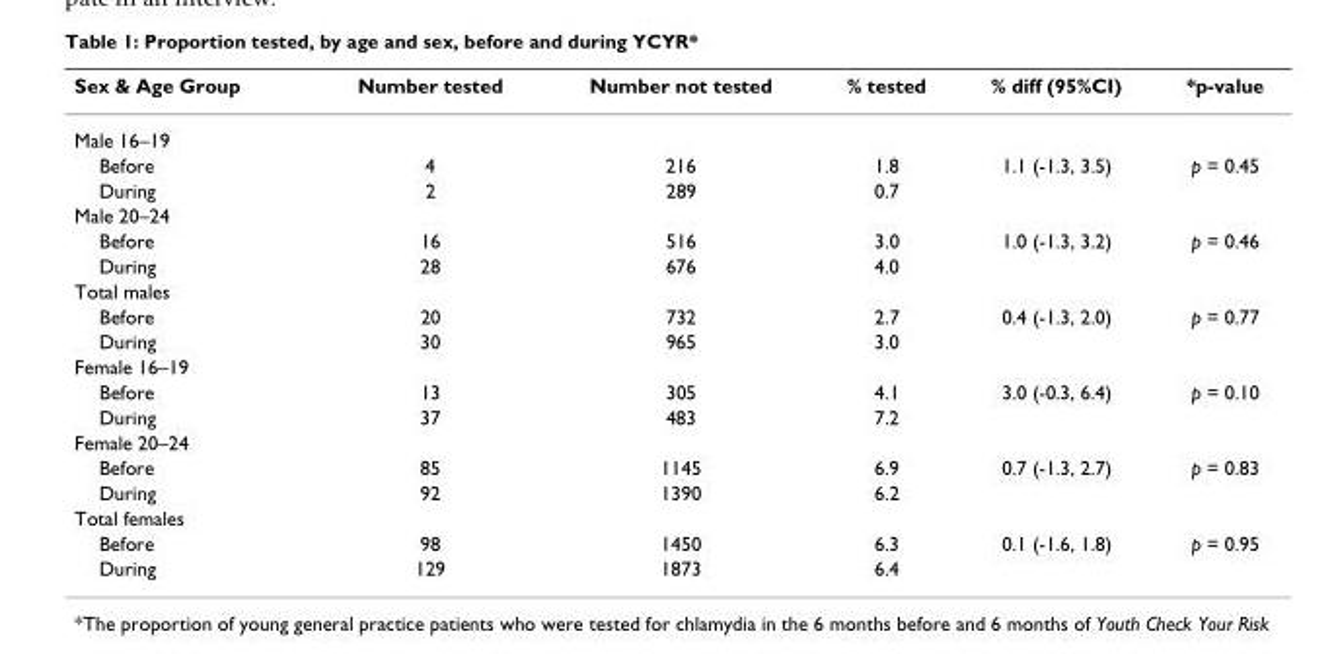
<table><thead><tr><td>Sex &amp; Age Group</td><td>Number tested</td><td>Number not tested</td><td>% tested</td><td>% diff (95%CI)</td><td>*p-value</td></tr></thead><tbody><tr><td colspan="6">Male 16–19</td></tr><tr><td>Before</td><td>4</td><td>216</td><td>1.8</td><td>1.1 (-1.3, 3.5)</td><td>p = 0.45</td></tr><tr><td>During</td><td>2</td><td>289</td><td>0.7</td><td></td><td></td></tr><tr><td colspan="6">Male 20–24</td></tr><tr><td>Before</td><td>16</td><td>516</td><td>3.0</td><td>1.0 (-1.3, 3.2)</td><td>p = 0.46</td></tr><tr><td>During</td><td>28</td><td>676</td><td>4.0</td><td></td><td></td></tr><tr><td colspan="6">Total males</td></tr><tr><td>Before</td><td>20</td><td>732</td><td>2.7</td><td>0.4 (-1.3, 2.0)</td><td>p = 0.77</td></tr><tr><td>During</td><td>30</td><td>965</td><td>3.0</td><td></td><td></td></tr><tr><td colspan="6">Female 16–19</td></tr><tr><td>Before</td><td>13</td><td>305</td><td>4.1</td><td>3.0 (-0.3, 6.4)</td><td>p = 0.10</td></tr><tr><td>During</td><td>37</td><td>483</td><td>7.2</td><td></td><td></td></tr><tr><td colspan="6">Female 20–24</td></tr><tr><td>Before</td><td>85</td><td>1145</td><td>6.9</td><td>0.7 (-1.3, 2.7)</td><td>p = 0.83</td></tr><tr><td>During</td><td>92</td><td>1390</td><td>6.2</td><td></td><td></td></tr><tr><td colspan="6">Total females</td></tr><tr><td>Before</td><td>98</td><td>1450</td><td>6.3</td><td>0.1 (-1.6, 1.8)</td><td>p = 0.95</td></tr><tr><td>During</td><td>129</td><td>1873</td><td>6.4</td><td></td><td></td></tr></tbody></table>